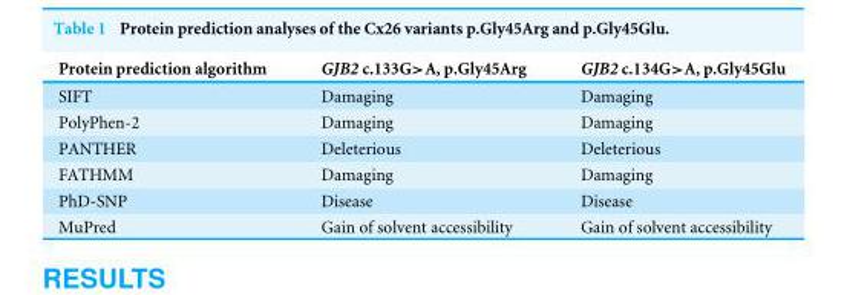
<table><thead><tr><td>Protein prediction algorithm</td><td>GJB2 c.133G&gt;A, p.Gly45Arg</td><td>GJB2 c.134G&gt;A, p.Gly45Glu</td></tr></thead><tbody><tr><td>SIFT</td><td>Damaging</td><td>Damaging</td></tr><tr><td>PolyPhen-2</td><td>Damaging</td><td>Damaging</td></tr><tr><td>PANTHER</td><td>Deleterious</td><td>Deleterious</td></tr><tr><td>FATHMM</td><td>Damaging</td><td>Damaging</td></tr><tr><td>PhD-SNP</td><td>Disease</td><td>Disease</td></tr><tr><td>MuPred</td><td>Gain of solvent accessibility</td><td>Gain of solvent accessibility</td></tr></tbody></table>